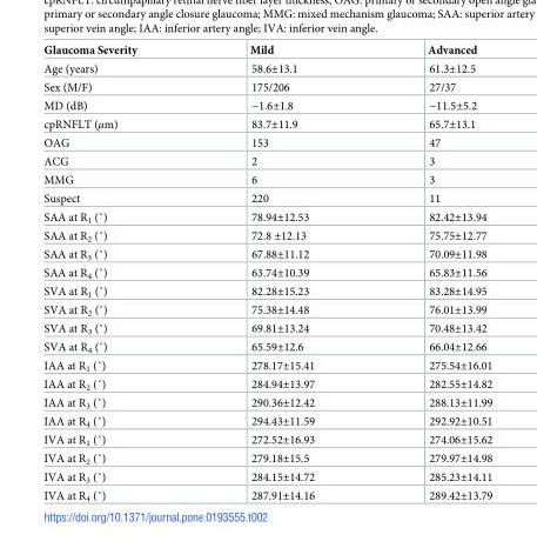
<table><thead><tr><td>Glaucoma Severity</td><td>Mild</td><td>Advanced</td></tr></thead><tbody><tr><td>Age (years)</td><td>58.6±13.1</td><td>61.3±12.5</td></tr><tr><td>Sex (M/F)</td><td>175/206</td><td>27/37</td></tr><tr><td>MD (dB)</td><td>−1.6±1.8</td><td>−11.5±5.2</td></tr><tr><td>cpRNFLT (μm)</td><td>83.7±11.9</td><td>65.7±13.1</td></tr><tr><td>OAG</td><td>153</td><td>47</td></tr><tr><td>ACG</td><td>2</td><td>3</td></tr><tr><td>MMG</td><td>6</td><td>3</td></tr><tr><td>Suspect</td><td>220</td><td>11</td></tr><tr><td>SAA at R1 (˚)</td><td>78.94±12.53</td><td>82.42±13.94</td></tr><tr><td>SAA at R2 (˚)</td><td>72.8 ±12.13</td><td>75.75±12.77</td></tr><tr><td>SAA at R3 (˚)</td><td>67.88±11.12</td><td>70.09±11.98</td></tr><tr><td>SAA at R4 (˚)</td><td>63.74±10.39</td><td>65.83±11.56</td></tr><tr><td>SVA at R1 (˚)</td><td>82.28±15.23</td><td>83.28±14.95</td></tr><tr><td>SVA at R2 (˚)</td><td>75.38±14.48</td><td>76.01±13.99</td></tr><tr><td>SVA at R3 (˚)</td><td>69.81±13.24</td><td>70.48±13.42</td></tr><tr><td>SVA at R4 (˚)</td><td>65.59±12.6</td><td>66.04±12.66</td></tr><tr><td>IAA at R1 (˚)</td><td>278.17±15.41</td><td>275.54±16.01</td></tr><tr><td>IAA at R2 (˚)</td><td>284.94±13.97</td><td>282.55±14.82</td></tr><tr><td>IAA at R3 (˚)</td><td>290.36±12.42</td><td>288.13±11.99</td></tr><tr><td>IAA at R4 (˚)</td><td>294.43±11.59</td><td>292.92±10.51</td></tr><tr><td>IVA at R1 (˚)</td><td>272.52±16.93</td><td>274.06±15.62</td></tr><tr><td>IVA at R2 (˚)</td><td>279.18±15.5</td><td>279.97±14.98</td></tr><tr><td>IVA at R3 (˚)</td><td>284.15±14.72</td><td>285.23±14.11</td></tr><tr><td>IVA at R4 (˚)</td><td>287.91±14.16</td><td>289.42±13.79</td></tr></tbody></table>